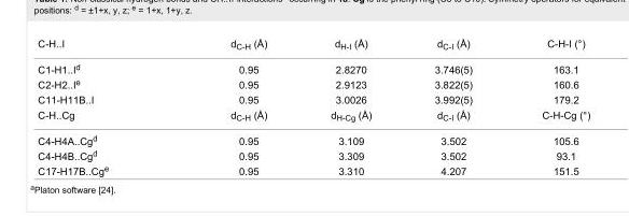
<table><tbody><tr><td>C-H..I</td><td>d<sub>C-H</sub> (Å)</td><td>d<sub>H-I</sub> (Å)</td><td>d<sub>C-I</sub> (Å)</td><td>C-H-I (°)</td></tr><tr><td>C1-H1..I<sup>d</sup></td><td>0.95</td><td>2.8270</td><td>3.746(5)</td><td>163.1</td></tr><tr><td>C2-H2..I<sup>e</sup></td><td>0.95</td><td>2.9123</td><td>3.822(5)</td><td>160.6</td></tr><tr><td>C11-H11B..I</td><td>0.95</td><td>3.0026</td><td>3.992(5)</td><td>179.2</td></tr><tr><td>C-H..Cg</td><td>d<sub>C-H</sub> (Å)</td><td>d<sub>H-Cg</sub> (Å)</td><td>d<sub>C-I</sub> (Å)</td><td>C-H-Cg (°)</td></tr><tr><td>C4-H4A..Cg<sup>d</sup></td><td>0.95</td><td>3.109</td><td>3.502</td><td>105.6</td></tr><tr><td>C4-H4B..Cg<sup>d</sup></td><td>0.95</td><td>3.309</td><td>3.502</td><td>93.1</td></tr><tr><td>C17-H17B..Cg<sup>e</sup></td><td>0.95</td><td>3.310</td><td>4.207</td><td>151.5</td></tr></tbody></table>